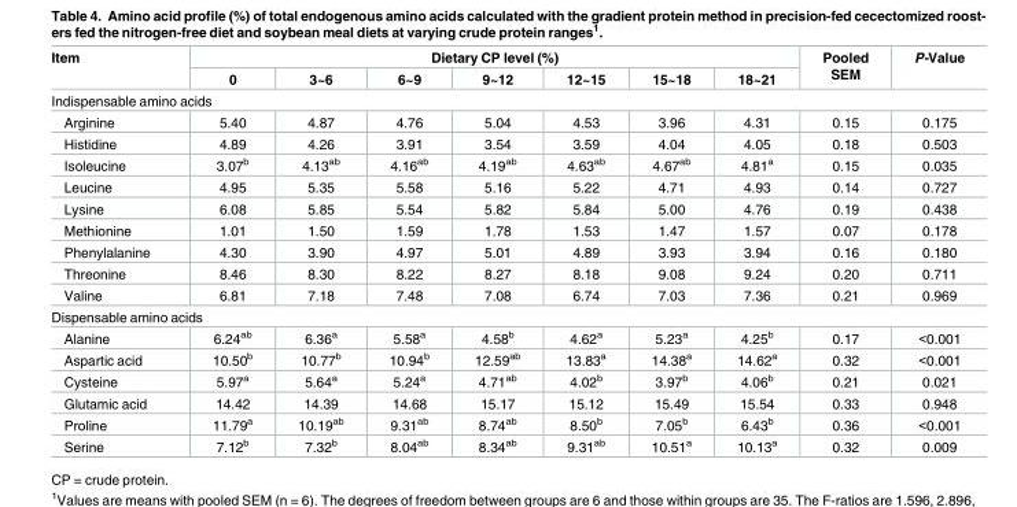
<table><thead><tr><td rowspan="2">Item</td><td colspan="7">Dietary CP level (%)</td><td rowspan="2">Pooled SEM</td><td rowspan="2">P-Value</td></tr><tr><td>0</td><td>3~6</td><td>6~9</td><td>9~12</td><td>12~15</td><td>15~18</td><td>18~21</td></tr></thead><tbody><tr><td colspan="10">Indispensable amino acids</td></tr><tr><td>Arginine</td><td>5.40</td><td>4.87</td><td>4.76</td><td>5.04</td><td>4.53</td><td>3.96</td><td>4.31</td><td>0.15</td><td>0.175</td></tr><tr><td>Histidine</td><td>4.89</td><td>4.26</td><td>3.91</td><td>3.54</td><td>3.59</td><td>4.04</td><td>4.05</td><td>0.18</td><td>0.503</td></tr><tr><td>Isoleucine</td><td>3.07<sup>b</sup></td><td>4.13<sup>ab</sup></td><td>4.16<sup>ab</sup></td><td>4.19<sup>ab</sup></td><td>4.63<sup>ab</sup></td><td>4.67<sup>ab</sup></td><td>4.81<sup>a</sup></td><td>0.15</td><td>0.035</td></tr><tr><td>Leucine</td><td>4.95</td><td>5.35</td><td>5.58</td><td>5.16</td><td>5.22</td><td>4.71</td><td>4.93</td><td>0.14</td><td>0.727</td></tr><tr><td>Lysine</td><td>6.08</td><td>5.85</td><td>5.54</td><td>5.82</td><td>5.84</td><td>5.00</td><td>4.76</td><td>0.19</td><td>0.438</td></tr><tr><td>Methionine</td><td>1.01</td><td>1.50</td><td>1.59</td><td>1.78</td><td>1.53</td><td>1.47</td><td>1.57</td><td>0.07</td><td>0.178</td></tr><tr><td>Phenylalanine</td><td>4.30</td><td>3.90</td><td>4.97</td><td>5.01</td><td>4.89</td><td>3.93</td><td>3.94</td><td>0.16</td><td>0.180</td></tr><tr><td>Threonine</td><td>8.46</td><td>8.30</td><td>8.22</td><td>8.27</td><td>8.18</td><td>9.08</td><td>9.24</td><td>0.20</td><td>0.711</td></tr><tr><td>Valine</td><td>6.81</td><td>7.18</td><td>7.48</td><td>7.08</td><td>6.74</td><td>7.03</td><td>7.36</td><td>0.21</td><td>0.969</td></tr><tr><td colspan="10">Dispensable amino acids</td></tr><tr><td>Alanine</td><td>6.24<sup>ab</sup></td><td>6.36<sup>a</sup></td><td>5.58<sup>a</sup></td><td>4.58<sup>b</sup></td><td>4.62<sup>a</sup></td><td>5.23<sup>a</sup></td><td>4.25<sup>b</sup></td><td>0.17</td><td>&lt;0.001</td></tr><tr><td>Aspartic acid</td><td>10.50<sup>b</sup></td><td>10.77<sup>b</sup></td><td>10.94<sup>b</sup></td><td>12.59<sup>ab</sup></td><td>13.83<sup>a</sup></td><td>14.38<sup>a</sup></td><td>14.62<sup>a</sup></td><td>0.32</td><td>&lt;0.001</td></tr><tr><td>Cysteine</td><td>5.97<sup>a</sup></td><td>5.64<sup>a</sup></td><td>5.24<sup>a</sup></td><td>4.71<sup>ab</sup></td><td>4.02<sup>b</sup></td><td>3.97<sup>b</sup></td><td>4.06<sup>b</sup></td><td>0.21</td><td>0.021</td></tr><tr><td>Glutamic acid</td><td>14.42</td><td>14.39</td><td>14.68</td><td>15.17</td><td>15.12</td><td>15.49</td><td>15.54</td><td>0.33</td><td>0.948</td></tr><tr><td>Proline</td><td>11.79<sup>a</sup></td><td>10.19<sup>ab</sup></td><td>9.31<sup>ab</sup></td><td>8.74<sup>ab</sup></td><td>8.50<sup>b</sup></td><td>7.05<sup>b</sup></td><td>6.43<sup>b</sup></td><td>0.36</td><td>&lt;0.001</td></tr><tr><td>Serine</td><td>7.12<sup>b</sup></td><td>7.32<sup>b</sup></td><td>8.04<sup>ab</sup></td><td>8.34<sup>ab</sup></td><td>9.31<sup>ab</sup></td><td>10.51<sup>a</sup></td><td>10.13<sup>a</sup></td><td>0.32</td><td>0.009</td></tr></tbody></table>